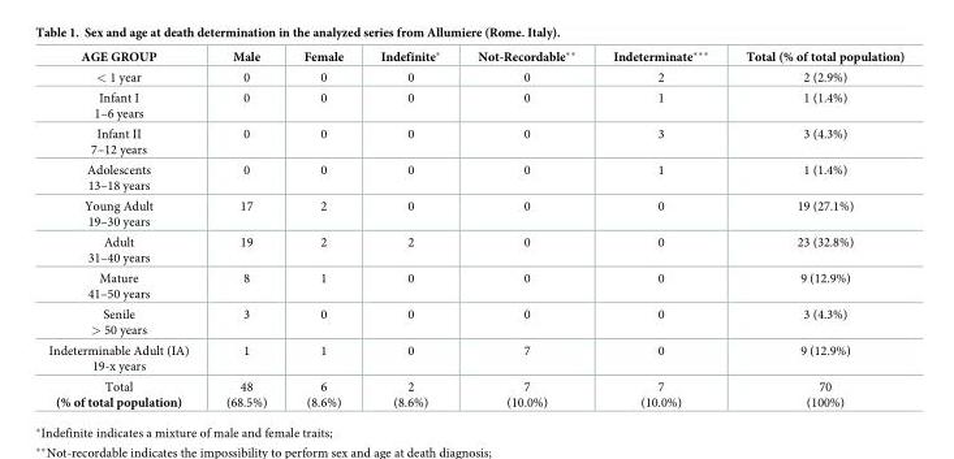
<table><thead><tr><td>AGE GROUP</td><td>Male</td><td>Female</td><td>Indefinite*</td><td>Not-Recordable**</td><td>Indeterminate***</td><td>Total (% of total population)</td></tr></thead><tbody><tr><td>&lt; 1 year</td><td>0</td><td>0</td><td>0</td><td>0</td><td>2</td><td>2 (2.9%)</td></tr><tr><td>Infant I 1–6 years</td><td>0</td><td>0</td><td>0</td><td>0</td><td>1</td><td>1 (1.4%)</td></tr><tr><td>Infant II 7–12 years</td><td>0</td><td>0</td><td>0</td><td>0</td><td>3</td><td>3 (4.3%)</td></tr><tr><td>Adolescents 13–18 years</td><td>0</td><td>0</td><td>0</td><td>0</td><td>1</td><td>1 (1.4%)</td></tr><tr><td>Young Adult 19–30 years</td><td>17</td><td>2</td><td>0</td><td>0</td><td>0</td><td>19 (27.1%)</td></tr><tr><td>Adult 31–40 years</td><td>19</td><td>2</td><td>2</td><td>0</td><td>0</td><td>23 (32.8%)</td></tr><tr><td>Mature 41–50 years</td><td>8</td><td>1</td><td>0</td><td>0</td><td>0</td><td>9 (12.9%)</td></tr><tr><td>Senile &gt; 50 years</td><td>3</td><td>0</td><td>0</td><td>0</td><td>0</td><td>3 (4.3%)</td></tr><tr><td>Indeterminable Adult (IA) 19-x years</td><td>1</td><td>1</td><td>0</td><td>7</td><td>0</td><td>9 (12.9%)</td></tr><tr><td>Total (% of total population)</td><td>48 (68.5%)</td><td>6 (8.6%)</td><td>2 (8.6%)</td><td>7 (10.0%)</td><td>7 (10.0%)</td><td>70 (100%)</td></tr></tbody></table>